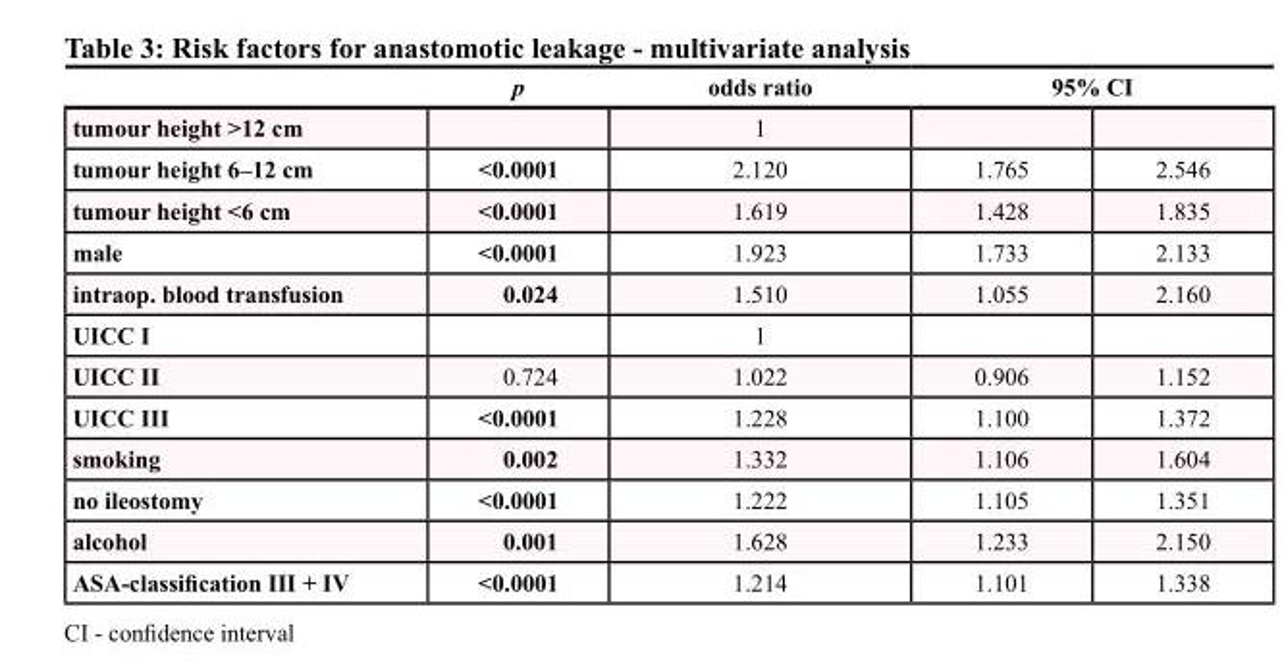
<table><thead><tr><td rowspan="2">tumour height &gt;12 cm</td><td rowspan="2">p</td><td rowspan="2">odds ratio 1</td><td colspan="2">95% CI</td></tr><tr><td></td><td></td></tr></thead><tbody><tr><td>tumour height 6–12 cm</td><td>&lt;0.0001</td><td>2.120</td><td>1.765</td><td>2.546</td></tr><tr><td>tumour height &lt;6 cm</td><td>&lt;0.0001</td><td>1.619</td><td>1.428</td><td>1.835</td></tr><tr><td>male</td><td>&lt;0.0001</td><td>1.923</td><td>1.733</td><td>2.133</td></tr><tr><td>intraop. blood transfusion</td><td>0.024</td><td>1.510</td><td>1.055</td><td>2.160</td></tr><tr><td>UICC I</td><td></td><td>1</td><td></td><td></td></tr><tr><td>UICC II</td><td>0.724</td><td>1.022</td><td>0.906</td><td>1.152</td></tr><tr><td>UICC III</td><td>&lt;0.0001</td><td>1.228</td><td>1.100</td><td>1.372</td></tr><tr><td>smoking</td><td>0.002</td><td>1.332</td><td>1.106</td><td>1.604</td></tr><tr><td>no ileostomy</td><td>&lt;0.0001</td><td>1.222</td><td>1.105</td><td>1.351</td></tr><tr><td>alcohol</td><td>0.001</td><td>1.628</td><td>1.233</td><td>2.150</td></tr><tr><td>ASA-classification III + IV</td><td>&lt;0.0001</td><td>1.214</td><td>1.101</td><td>1.338</td></tr></tbody></table>